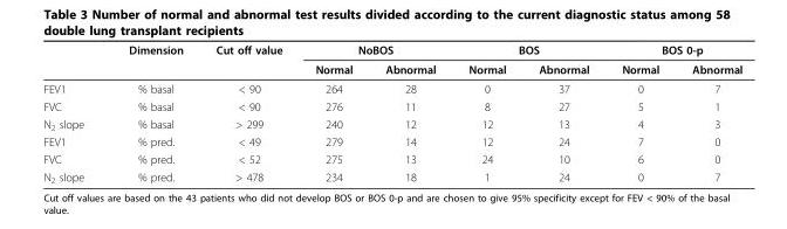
<table><thead><tr><td rowspan="2"></td><td rowspan="2">Dimension</td><td rowspan="2">Cut off value</td><td colspan="2">NoBOS</td><td colspan="2">BOS</td><td colspan="2">BOS 0-p</td></tr><tr><td>Normal</td><td>Abnormal</td><td>Normal</td><td>Abnormal</td><td>Normal</td><td>Abnormal</td></tr></thead><tbody><tr><td>FEV1</td><td>% basal</td><td>&lt; 90</td><td>264</td><td>28</td><td>0</td><td>37</td><td>0</td><td>7</td></tr><tr><td>FVC</td><td>% basal</td><td>&lt; 90</td><td>276</td><td>11</td><td>8</td><td>27</td><td>5</td><td>1</td></tr><tr><td>N<sub>2</sub> slope</td><td>% basal</td><td>&gt; 299</td><td>240</td><td>12</td><td>12</td><td>13</td><td>4</td><td>3</td></tr><tr><td>FEV1</td><td>% pred.</td><td>&lt; 49</td><td>279</td><td>14</td><td>12</td><td>24</td><td>7</td><td>0</td></tr><tr><td>FVC</td><td>% pred.</td><td>&lt; 52</td><td>275</td><td>13</td><td>24</td><td>10</td><td>6</td><td>0</td></tr><tr><td>N<sub>2</sub> slope</td><td>% pred.</td><td>&gt; 478</td><td>234</td><td>18</td><td>1</td><td>24</td><td>0</td><td>7</td></tr></tbody></table>